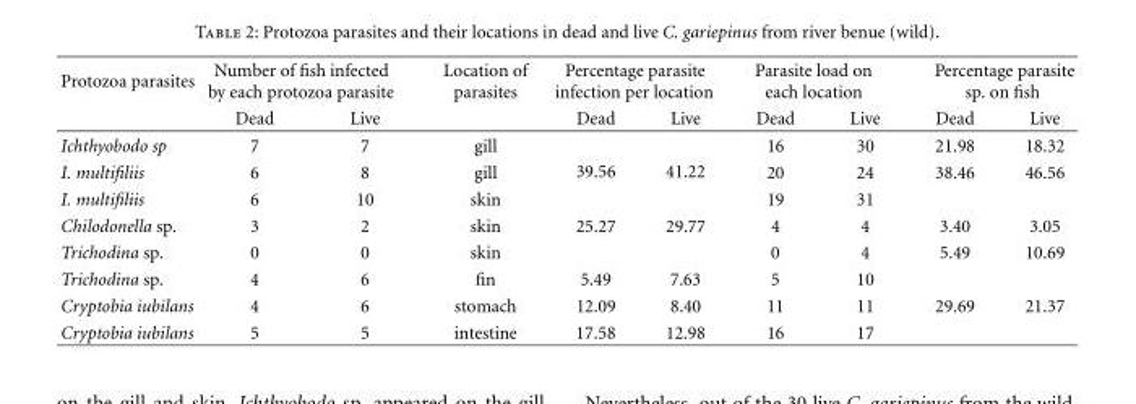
<table><thead><tr><td rowspan="2">Protozoa parasites</td><td colspan="2">Number of fish infected by each protozoa parasite</td><td rowspan="2">Location of parasites</td><td colspan="2">Percentage parasite infection per location</td><td colspan="2">Parasite load on each location</td><td colspan="2">Percentage parasite sp. on fish</td></tr><tr><td>Dead</td><td>Live</td><td>Dead</td><td>Live</td><td>Dead</td><td>Live</td><td>Dead</td><td>Live</td></tr></thead><tbody><tr><td>Ichthyobodo sp</td><td>7</td><td>7</td><td>gill</td><td rowspan="2">39.56</td><td rowspan="2">41.22</td><td>16</td><td>30</td><td>21.98</td><td>18.32</td></tr><tr><td>I. multifiliis</td><td>6</td><td>8</td><td>gill</td><td>20</td><td>24</td><td>38.46</td><td>46.56</td></tr><tr><td>I. multifiliis</td><td>6</td><td>10</td><td>skin</td><td></td><td></td><td>19</td><td>31</td><td></td><td></td></tr><tr><td>Chilodonella sp.</td><td>3</td><td>2</td><td>skin</td><td>25.27</td><td>29.77</td><td>4</td><td>4</td><td>3.40</td><td>3.05</td></tr><tr><td>Trichodina sp.</td><td>0</td><td>0</td><td>skin</td><td></td><td></td><td>0</td><td>4</td><td>5.49</td><td>10.69</td></tr><tr><td>Trichodina sp.</td><td>4</td><td>6</td><td>fin</td><td>5.49</td><td>7.63</td><td>5</td><td>10</td><td></td><td></td></tr><tr><td>Cryptobia iubilans</td><td>4</td><td>6</td><td>stomach</td><td>12.09</td><td>8.40</td><td>11</td><td>11</td><td>29.69</td><td>21.37</td></tr><tr><td>Cryptobia iubilans</td><td>5</td><td>5</td><td>intestine</td><td>17.58</td><td>12.98</td><td>16</td><td>17</td><td></td><td></td></tr></tbody></table>